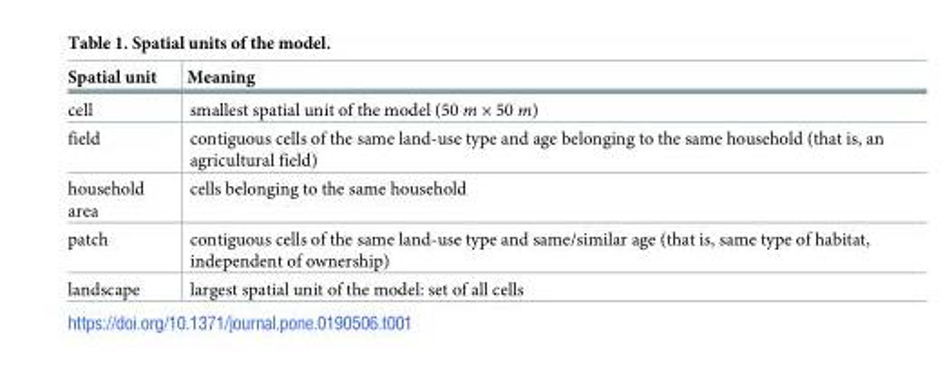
<table><thead><tr><td>Spatial unit</td><td>Meaning</td></tr></thead><tbody><tr><td>cell</td><td>smallest spatial unit of the model (50 m × 50 m)</td></tr><tr><td>field</td><td>contiguous cells of the same land-use type and age belonging to the same household (that is, an agricultural field)</td></tr><tr><td>household area</td><td>cells belonging to the same household</td></tr><tr><td>patch</td><td>contiguous cells of the same land-use type and same/similar age (that is, same type of habitat, independent of ownership)</td></tr><tr><td>landscape</td><td>largest spatial unit of the model: set of all cells</td></tr></tbody></table>